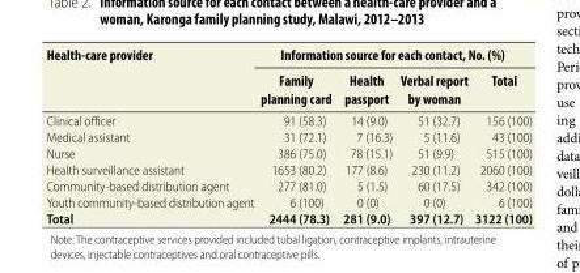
<table><thead><tr><td rowspan="2">Health-care provider</td><td colspan="4">Information source for each contact, No. (%)</td></tr><tr><td>Family planning card</td><td>Health passport</td><td>Verbal report by woman</td><td>Total</td></tr></thead><tbody><tr><td>Clinical officer</td><td>91 (58.3)</td><td>14 (9.0)</td><td>51 (32.7)</td><td>156 (100)</td></tr><tr><td>Medical assistant</td><td>31 (72.1)</td><td>7 (16.3)</td><td>5 (11.6)</td><td>43 (100)</td></tr><tr><td>Nurse</td><td>386 (75.0)</td><td>78 (15.1)</td><td>51 (9.9)</td><td>515 (100)</td></tr><tr><td>Health surveillance assistant</td><td>1653 (80.2)</td><td>177 (8.6)</td><td>230 (11.2)</td><td>2060 (100)</td></tr><tr><td>Community-based distribution agent</td><td>277 (81.0)</td><td>5 (1.5)</td><td>60 (17.5)</td><td>342 (100)</td></tr><tr><td>Youth community-based distribution agent</td><td>6 (100)</td><td>0 (0)</td><td>0 (0)</td><td>6 (100)</td></tr><tr><td>Total</td><td>2444 (78.3)</td><td>281 (9.0)</td><td>397 (12.7)</td><td>3122 (100)</td></tr></tbody></table>